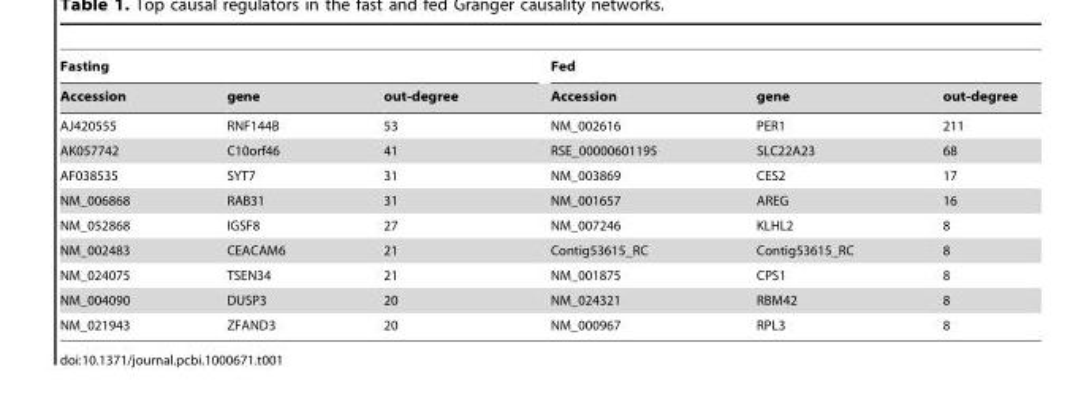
<table><thead><tr><td colspan="3">Fasting</td><td colspan="3">Fed</td></tr><tr><td>Accession</td><td>gene</td><td>out-degree</td><td>Accession</td><td>gene</td><td>out-degree</td></tr></thead><tbody><tr><td>AJ420555</td><td>RNF144B</td><td>53</td><td>NM_002616</td><td>PER1</td><td>211</td></tr><tr><td>AK057742</td><td>C10orf46</td><td>41</td><td>RSE_00000601195</td><td>SLC22A23</td><td>68</td></tr><tr><td>AF038535</td><td>SYT7</td><td>31</td><td>NM_003869</td><td>CES2</td><td>17</td></tr><tr><td>NM_006868</td><td>RAB31</td><td>31</td><td>NM_001657</td><td>AREG</td><td>16</td></tr><tr><td>NM_052868</td><td>IGSF8</td><td>27</td><td>NM_007246</td><td>KLHL2</td><td>8</td></tr><tr><td>NM_002483</td><td>CEACAM6</td><td>21</td><td>Contig53615_RC</td><td>Contig53615_RC</td><td>8</td></tr><tr><td>NM_024075</td><td>TSEN34</td><td>21</td><td>NM_001875</td><td>CPS1</td><td>8</td></tr><tr><td>NM_004090</td><td>DUSP3</td><td>20</td><td>NM_024321</td><td>RBM42</td><td>8</td></tr><tr><td>NM_021943</td><td>ZFAND3</td><td>20</td><td>NM_000967</td><td>RPL3</td><td>8</td></tr></tbody></table>